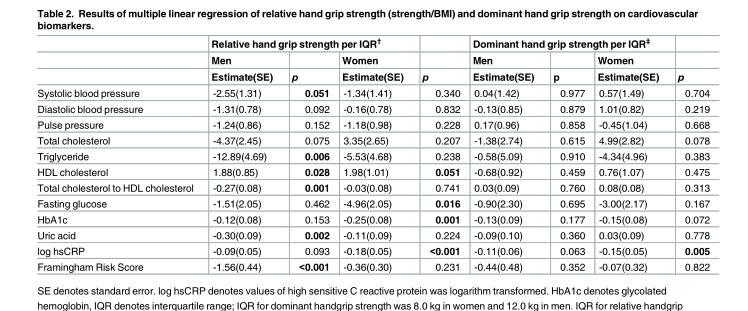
<table><thead><tr><td rowspan="3"></td><td colspan="3">Relative hand grip strength per IQR<sup>†</sup></td><td rowspan="3">p</td><td colspan="3">Dominant hand grip strength per IQR<sup>‡</sup></td><td rowspan="3">p</td></tr><tr><td rowspan="2">Men Estimate(SE)</td><td rowspan="2">p</td><td rowspan="2">Women Estimate(SE)</td><td rowspan="2">Men Estimate(SE)</td><td rowspan="2">p</td><td rowspan="2">Women Estimate(SE)</td></tr><tr></tr></thead><tbody><tr><td>Systolic blood pressure</td><td>-2.55(1.31)</td><td>0.051</td><td>-1.34(1.41)</td><td>0.340</td><td>0.04(1.42)</td><td>0.977</td><td>0.57(1.49)</td><td>0.704</td></tr><tr><td>Diastolic blood pressure</td><td>-1.31(0.78)</td><td>0.092</td><td>-0.16(0.78)</td><td>0.832</td><td>-0.13(0.85)</td><td>0.879</td><td>1.01(0.82)</td><td>0.219</td></tr><tr><td>Pulse pressure</td><td>-1.24(0.86)</td><td>0.152</td><td>-1.18(0.98)</td><td>0.228</td><td>0.17(0.96)</td><td>0.858</td><td>-0.45(1.04)</td><td>0.668</td></tr><tr><td>Total cholesterol</td><td>-4.37(2.45)</td><td>0.075</td><td>3.35(2.65)</td><td>0.207</td><td>-1.38(2.74)</td><td>0.615</td><td>4.99(2.82)</td><td>0.078</td></tr><tr><td>Triglyceride</td><td>-12.89(4.69)</td><td>0.006</td><td>-5.53(4.68)</td><td>0.238</td><td>-0.58(5.09)</td><td>0.910</td><td>-4.34(4.96)</td><td>0.383</td></tr><tr><td>HDL cholesterol</td><td>1.88(0.85)</td><td>0.028</td><td>1.98(1.01)</td><td>0.051</td><td>-0.68(0.92)</td><td>0.459</td><td>0.76(1.07)</td><td>0.475</td></tr><tr><td>Total cholesterol to HDL cholesterol</td><td>-0.27(0.08)</td><td>0.001</td><td>-0.03(0.08)</td><td>0.741</td><td>0.03(0.09)</td><td>0.760</td><td>0.08(0.08)</td><td>0.313</td></tr><tr><td>Fasting glucose</td><td>-1.51(2.05)</td><td>0.462</td><td>-4.96(2.05)</td><td>0.016</td><td>-0.90(2.30)</td><td>0.695</td><td>-3.00(2.17)</td><td>0.167</td></tr><tr><td>HbA1c</td><td>-0.12(0.08)</td><td>0.153</td><td>-0.25(0.08)</td><td>0.001</td><td>-0.13(0.09)</td><td>0.177</td><td>-0.15(0.08)</td><td>0.072</td></tr><tr><td>Uric acid</td><td>-0.30(0.09)</td><td>0.002</td><td>-0.11(0.09)</td><td>0.224</td><td>-0.09(0.10)</td><td>0.360</td><td>0.03(0.09)</td><td>0.778</td></tr><tr><td>log hsCRP</td><td>-0.09(0.05)</td><td>0.093</td><td>-0.18(0.05)</td><td>&lt;0.001</td><td>-0.11(0.06)</td><td>0.063</td><td>-0.15(0.05)</td><td>0.005</td></tr><tr><td>Framingham Risk Score</td><td>-1.56(0.44)</td><td>&lt;0.001</td><td>-0.36(0.30)</td><td>0.231</td><td>-0.44(0.48)</td><td>0.352</td><td>-0.07(0.32)</td><td>0.822</td></tr></tbody></table>